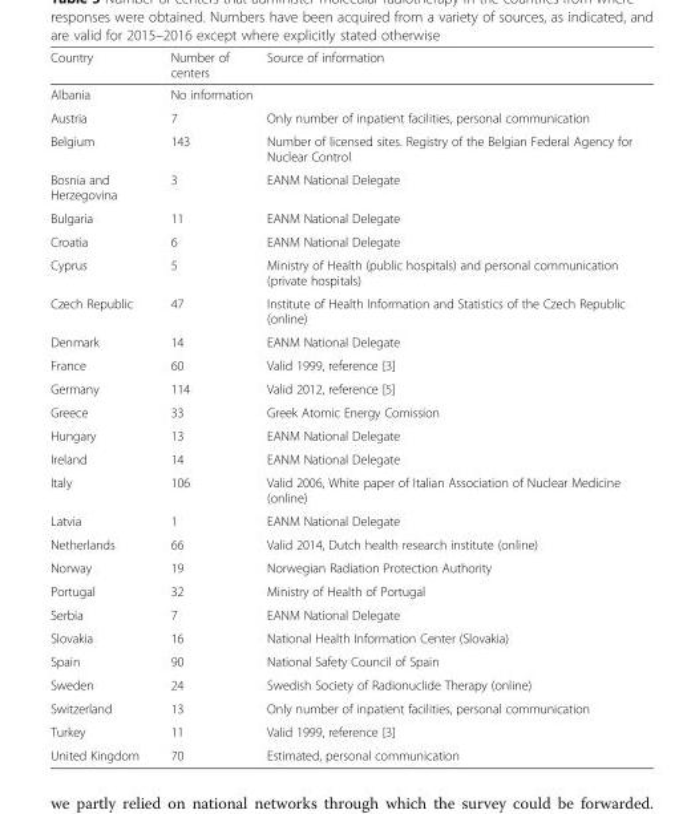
<table><thead><tr><td>Country</td><td>Number of centers</td><td>Source of information</td></tr></thead><tbody><tr><td>Albania</td><td colspan="2">No information</td></tr><tr><td>Austria</td><td>7</td><td>Only number of inpatient facilities, personal communication</td></tr><tr><td>Belgium</td><td>143</td><td>Number of licensed sites. Registry of the Belgian Federal Agency for Nuclear Control</td></tr><tr><td>Bosnia and Herzegovina</td><td>3</td><td>EANM National Delegate</td></tr><tr><td>Bulgaria</td><td>11</td><td>EANM National Delegate</td></tr><tr><td>Croatia</td><td>6</td><td>EANM National Delegate</td></tr><tr><td>Cyprus</td><td>5</td><td>Ministry of Health (public hospitals) and personal communication (private hospitals)</td></tr><tr><td>Czech Republic</td><td>47</td><td>Institute of Health Information and Statistics of the Czech Republic (online)</td></tr><tr><td>Denmark</td><td>14</td><td>EANM National Delegate</td></tr><tr><td>France</td><td>60</td><td>Valid 1999, reference [3]</td></tr><tr><td>Germany</td><td>114</td><td>Valid 2012, reference [5]</td></tr><tr><td>Greece</td><td>33</td><td>Greek Atomic Energy Comission</td></tr><tr><td>Hungary</td><td>13</td><td>EANM National Delegate</td></tr><tr><td>Ireland</td><td>14</td><td>EANM National Delegate</td></tr><tr><td>Italy</td><td>106</td><td>Valid 2006, White paper of Italian Association of Nuclear Medicine (online)</td></tr><tr><td>Latvia</td><td>1</td><td>EANM National Delegate</td></tr><tr><td>Netherlands</td><td>66</td><td>Valid 2014, Dutch health research institute (online)</td></tr><tr><td>Norway</td><td>19</td><td>Norwegian Radiation Protection Authority</td></tr><tr><td>Portugal</td><td>32</td><td>Ministry of Health of Portugal</td></tr><tr><td>Serbia</td><td>7</td><td>EANM National Delegate</td></tr><tr><td>Slovakia</td><td>16</td><td>National Health Information Center (Slovakia)</td></tr><tr><td>Spain</td><td>90</td><td>National Safety Council of Spain</td></tr><tr><td>Sweden</td><td>24</td><td>Swedish Society of Radionuclide Therapy (online)</td></tr><tr><td>Switzerland</td><td>13</td><td>Only number of inpatient facilities, personal communication</td></tr><tr><td>Turkey</td><td>11</td><td>Valid 1999, reference [3]</td></tr><tr><td>United Kingdom</td><td>70</td><td>Estimated, personal communication</td></tr></tbody></table>